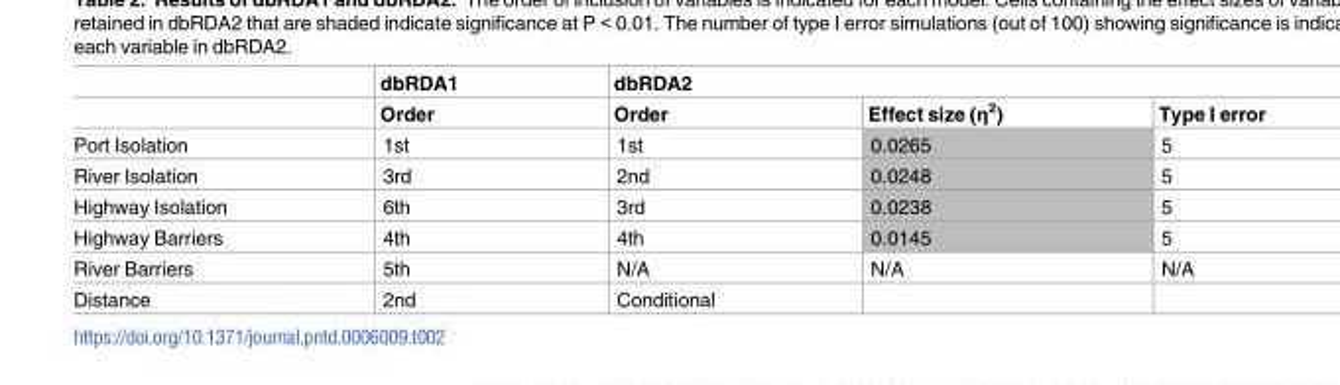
<table><thead><tr><td rowspan="2"></td><td rowspan="2">dbRDA1 Order</td><td colspan="3">dbRDA2</td></tr><tr><td>Order</td><td>Effect size (η<sup>2</sup>)</td><td>Type I error</td></tr></thead><tbody><tr><td>Port Isolation</td><td>1st</td><td>1st</td><td>0.0265</td><td>5</td></tr><tr><td>River Isolation</td><td>3rd</td><td>2nd</td><td>0.0248</td><td>5</td></tr><tr><td>Highway Isolation</td><td>6th</td><td>3rd</td><td>0.0238</td><td>5</td></tr><tr><td>Highway Barriers</td><td>4th</td><td>4th</td><td>0.0145</td><td>5</td></tr><tr><td>River Barriers</td><td>5th</td><td>N/A</td><td>N/A</td><td>N/A</td></tr><tr><td>Distance</td><td>2nd</td><td>Conditional</td><td></td><td></td></tr></tbody></table>